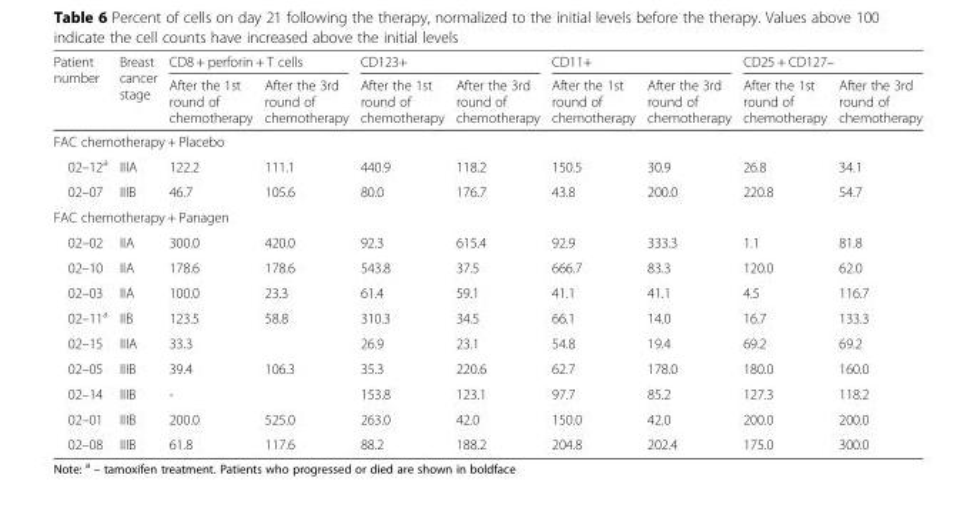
<table><thead><tr><td rowspan="2">Patient number</td><td rowspan="2">Breast cancer stage</td><td colspan="2">CD8 + perforin + T cells</td><td colspan="2">CD123+</td><td colspan="2">CD11+</td><td colspan="2">CD25 + CD127–</td></tr><tr><td>After the 1st round of chemotherapy</td><td>After the 3rd round of chemotherapy</td><td>After the 1st round of chemotherapy</td><td>After the 3rd round of chemotherapy</td><td>After the 1st round of chemotherapy</td><td>After the 3rd round of chemotherapy</td><td>After the 1st round of chemotherapy</td><td>After the 3rd round of chemotherapy</td></tr></thead><tbody><tr><td colspan="10">FAC chemotherapy + Placebo</td></tr><tr><td>02–12<sup>a</sup></td><td>IIIA</td><td>122.2</td><td>111.1</td><td>440.9</td><td>118.2</td><td>150.5</td><td>30.9</td><td>26.8</td><td>34.1</td></tr><tr><td>02–07</td><td>IIIB</td><td>46.7</td><td>105.6</td><td>80.0</td><td>176.7</td><td>43.8</td><td>200.0</td><td>220.8</td><td>54.7</td></tr><tr><td colspan="10">FAC chemotherapy + Panagen</td></tr><tr><td>02–02</td><td>IIA</td><td>300.0</td><td>420.0</td><td>92.3</td><td>615.4</td><td>92.9</td><td>333.3</td><td>1.1</td><td>81.8</td></tr><tr><td>02–10</td><td>IIA</td><td>178.6</td><td>178.6</td><td>543.8</td><td>37.5</td><td>666.7</td><td>83.3</td><td>120.0</td><td>62.0</td></tr><tr><td>02–03</td><td>IIA</td><td>100.0</td><td>23.3</td><td>61.4</td><td>59.1</td><td>41.1</td><td>41.1</td><td>4.5</td><td>116.7</td></tr><tr><td>02–11<sup>a</sup></td><td>IIB</td><td>123.5</td><td>58.8</td><td>310.3</td><td>34.5</td><td>66.1</td><td>14.0</td><td>16.7</td><td>133.3</td></tr><tr><td>02–15</td><td>IIIA</td><td>33.3</td><td></td><td>26.9</td><td>23.1</td><td>54.8</td><td>19.4</td><td>69.2</td><td>69.2</td></tr><tr><td>02–05</td><td>IIIB</td><td>39.4</td><td>106.3</td><td>35.3</td><td>220.6</td><td>62.7</td><td>178.0</td><td>180.0</td><td>160.0</td></tr><tr><td>02–14</td><td>IIIB</td><td>-</td><td></td><td>153.8</td><td>123.1</td><td>97.7</td><td>85.2</td><td>127.3</td><td>118.2</td></tr><tr><td>02–01</td><td>IIIB</td><td>200.0</td><td>525.0</td><td>263.0</td><td>42.0</td><td>150.0</td><td>42.0</td><td>200.0</td><td>200.0</td></tr><tr><td>02–08</td><td>IIIB</td><td>61.8</td><td>117.6</td><td>88.2</td><td>188.2</td><td>204.8</td><td>202.4</td><td>175.0</td><td>300.0</td></tr></tbody></table>